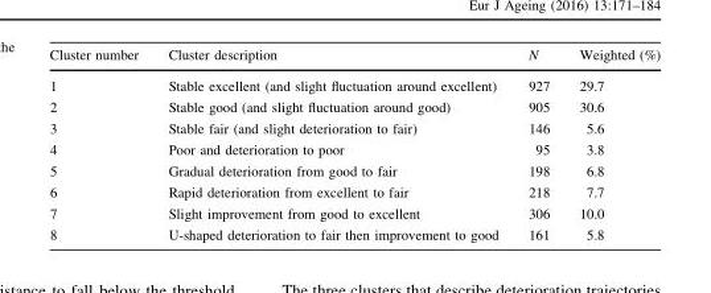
<table><thead><tr><td>Cluster number</td><td>Cluster description</td><td>N</td><td>Weighted (%)</td></tr></thead><tbody><tr><td>1</td><td>Stable excellent (and slight fluctuation around excellent)</td><td>927</td><td>29.7</td></tr><tr><td>2</td><td>Stable good (and slight fluctuation around good)</td><td>905</td><td>30.6</td></tr><tr><td>3</td><td>Stable fair (and slight deterioration to fair)</td><td>146</td><td>5.6</td></tr><tr><td>4</td><td>Poor and deterioration to poor</td><td>95</td><td>3.8</td></tr><tr><td>5</td><td>Gradual deterioration from good to fair</td><td>198</td><td>6.8</td></tr><tr><td>6</td><td>Rapid deterioration from excellent to fair</td><td>218</td><td>7.7</td></tr><tr><td>7</td><td>Slight improvement from good to excellent</td><td>306</td><td>10.0</td></tr><tr><td>8</td><td>U-shaped deterioration to fair then improvement to good</td><td>161</td><td>5.8</td></tr></tbody></table>